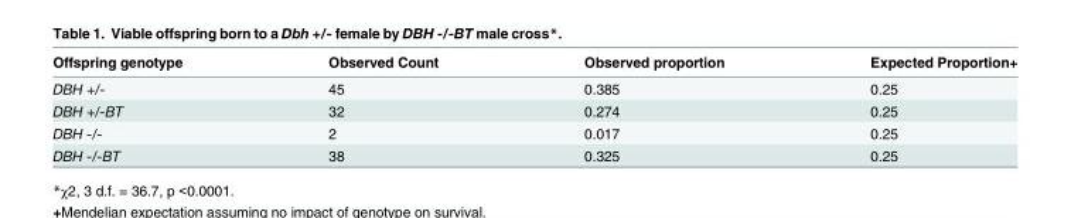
<table><thead><tr><td>Offspring genotype</td><td>Observed Count</td><td>Observed proportion</td><td>Expected Proportion+</td></tr></thead><tbody><tr><td>DBH +/-</td><td>45</td><td>0.385</td><td>0.25</td></tr><tr><td>DBH +/-BT</td><td>32</td><td>0.274</td><td>0.25</td></tr><tr><td>DBH -/-</td><td>2</td><td>0.017</td><td>0.25</td></tr><tr><td>DBH -/-BT</td><td>38</td><td>0.325</td><td>0.25</td></tr></tbody></table>